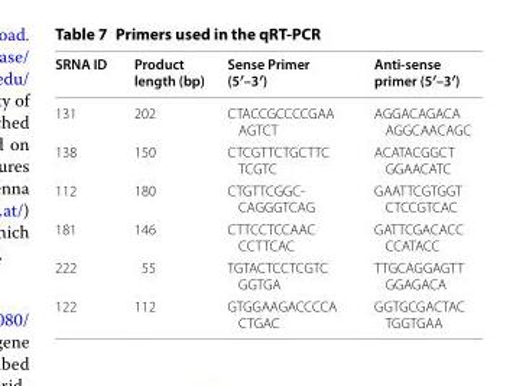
<table><thead><tr><td>SRNA ID</td><td>Product length (bp)</td><td>Sense Primer (5′–3′)</td><td>Anti-sense primer (5′–3′)</td></tr></thead><tbody><tr><td>131</td><td>202</td><td>CTACCGCCCCGAA AGTCT</td><td>AGGACAGACA AGGCAACAGC</td></tr><tr><td>138</td><td>150</td><td>CTCGTTCTGCTTC TCGTC</td><td>ACATACGGCT GGAACATC</td></tr><tr><td>112</td><td>180</td><td>CTGTTCGGC‑ CAGGGTCAG</td><td>GAATTCGTGGT CTCCGTCAC</td></tr><tr><td>181</td><td>146</td><td>CTTCCTCCAAC CCTTCAC</td><td>GATTCGACACC CCATACC</td></tr><tr><td>222</td><td>55</td><td>TGTACTCCTCGTC GGTGA</td><td>TTGCAGGAGTT GGAGACA</td></tr><tr><td>122</td><td>112</td><td>GTGGAAGACCCCA CTGAC</td><td>GGTGCGACTAC TGGTGAA</td></tr></tbody></table>